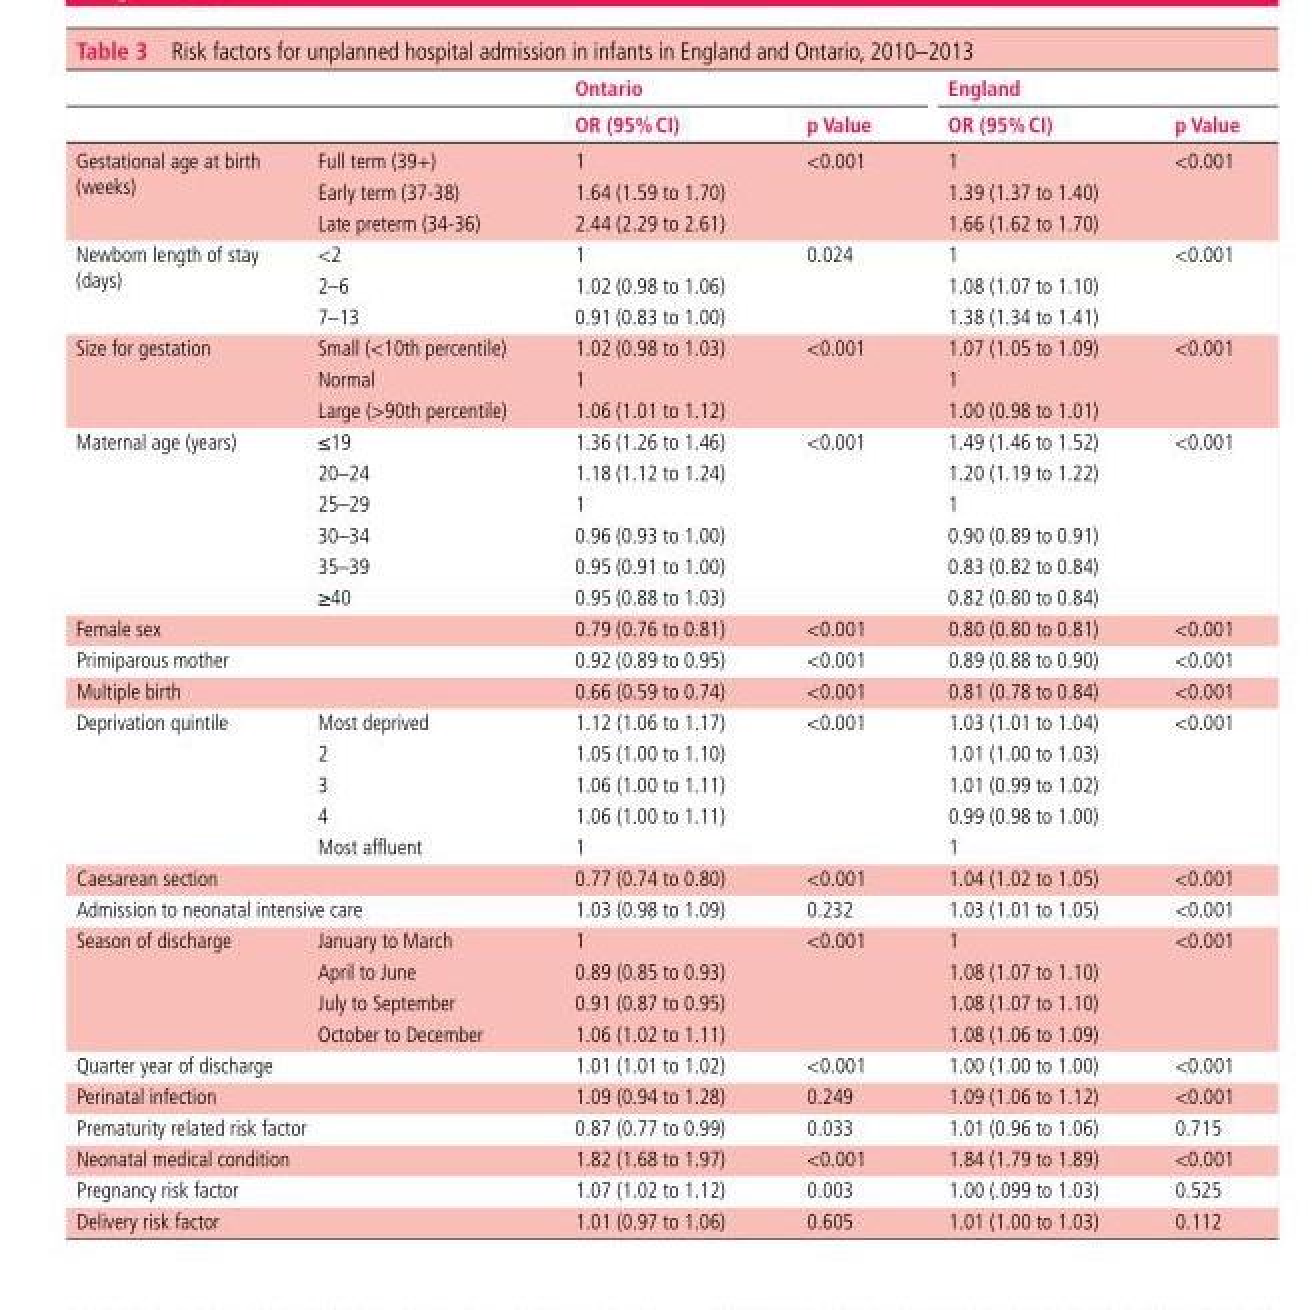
<table><thead><tr><td rowspan="2"></td><td rowspan="2"></td><td colspan="2">Ontario</td><td colspan="2">England</td></tr><tr><td>OR (95% CI)</td><td>p Value</td><td>OR (95% CI)</td><td>p Value</td></tr></thead><tbody><tr><td rowspan="3">Gestational age at birth (weeks)</td><td>Full term (39+)</td><td>1</td><td>&lt;0.001</td><td>1</td><td>&lt;0.001</td></tr><tr><td>Early term (37-38)</td><td>1.64 (1.59 to 1.70)</td><td></td><td>1.39 (1.37 to 1.40)</td><td></td></tr><tr><td>Late preterm (34-36)</td><td>2.44 (2.29 to 2.61)</td><td></td><td>1.66 (1.62 to 1.70)</td><td></td></tr><tr><td rowspan="3">Newborn length of stay (days)</td><td>&lt;2</td><td>1</td><td>0.024</td><td>1</td><td>&lt;0.001</td></tr><tr><td>2–6</td><td>1.02 (0.98 to 1.06)</td><td></td><td>1.08 (1.07 to 1.10)</td><td></td></tr><tr><td>7–13</td><td>0.91 (0.83 to 1.00)</td><td></td><td>1.38 (1.34 to 1.41)</td><td></td></tr><tr><td rowspan="3">Size for gestation</td><td>Small (&lt;10th percentile)</td><td>1.02 (0.98 to 1.03)</td><td>&lt;0.001</td><td>1.07 (1.05 to 1.09)</td><td>&lt;0.001</td></tr><tr><td>Normal</td><td>1</td><td></td><td>1</td><td></td></tr><tr><td>Large (&gt;90th percentile)</td><td>1.06 (1.01 to 1.12)</td><td></td><td>1.00 (0.98 to 1.01)</td><td></td></tr><tr><td rowspan="6">Maternal age (years)</td><td>≤19</td><td>1.36 (1.26 to 1.46)</td><td>&lt;0.001</td><td>1.49 (1.46 to 1.52)</td><td>&lt;0.001</td></tr><tr><td>20–24</td><td>1.18 (1.12 to 1.24)</td><td></td><td>1.20 (1.19 to 1.22)</td><td></td></tr><tr><td>25–29</td><td>1</td><td></td><td>1</td><td></td></tr><tr><td>30–34</td><td>0.96 (0.93 to 1.00)</td><td></td><td>0.90 (0.89 to 0.91)</td><td></td></tr><tr><td>35–39</td><td>0.95 (0.91 to 1.00)</td><td></td><td>0.83 (0.82 to 0.84)</td><td></td></tr><tr><td>≥40</td><td>0.95 (0.88 to 1.03)</td><td></td><td>0.82 (0.80 to 0.84)</td><td></td></tr><tr><td>Female sex</td><td></td><td>0.79 (0.76 to 0.81)</td><td>&lt;0.001</td><td>0.80 (0.80 to 0.81)</td><td>&lt;0.001</td></tr><tr><td colspan="2">Primiparous mother</td><td>0.92 (0.89 to 0.95)</td><td>&lt;0.001</td><td>0.89 (0.88 to 0.90)</td><td>&lt;0.001</td></tr><tr><td>Multiple birth</td><td></td><td>0.66 (0.59 to 0.74)</td><td>&lt;0.001</td><td>0.81 (0.78 to 0.84)</td><td>&lt;0.001</td></tr><tr><td rowspan="5">Deprivation quintile</td><td>Most deprived</td><td>1.12 (1.06 to 1.17)</td><td>&lt;0.001</td><td>1.03 (1.01 to 1.04)</td><td>&lt;0.001</td></tr><tr><td>2</td><td>1.05 (1.00 to 1.10)</td><td></td><td>1.01 (1.00 to 1.03)</td><td></td></tr><tr><td>3</td><td>1.06 (1.00 to 1.11)</td><td></td><td>1.01 (0.99 to 1.02)</td><td></td></tr><tr><td>4</td><td>1.06 (1.00 to 1.11)</td><td></td><td>0.99 (0.98 to 1.00)</td><td></td></tr><tr><td>Most affluent</td><td>1</td><td></td><td>1</td><td></td></tr><tr><td>Caesarean section</td><td></td><td>0.77 (0.74 to 0.80)</td><td>&lt;0.001</td><td>1.04 (1.02 to 1.05)</td><td>&lt;0.001</td></tr><tr><td colspan="2">Admission to neonatal intensive care</td><td>1.03 (0.98 to 1.09)</td><td>0.232</td><td>1.03 (1.01 to 1.05)</td><td>&lt;0.001</td></tr><tr><td rowspan="4">Season of discharge</td><td>January to March</td><td>1</td><td>&lt;0.001</td><td>1</td><td>&lt;0.001</td></tr><tr><td>April to June</td><td>0.89 (0.85 to 0.93)</td><td></td><td>1.08 (1.07 to 1.10)</td><td></td></tr><tr><td>July to September</td><td>0.91 (0.87 to 0.95)</td><td></td><td>1.08 (1.07 to 1.10)</td><td></td></tr><tr><td>October to December</td><td>1.06 (1.02 to 1.11)</td><td></td><td>1.08 (1.06 to 1.09)</td><td></td></tr><tr><td colspan="2">Quarter year of discharge</td><td>1.01 (1.01 to 1.02)</td><td>&lt;0.001</td><td>1.00 (1.00 to 1.00)</td><td>&lt;0.001</td></tr><tr><td colspan="2">Perinatal infection</td><td>1.09 (0.94 to 1.28)</td><td>0.249</td><td>1.09 (1.06 to 1.12)</td><td>&lt;0.001</td></tr><tr><td colspan="2">Prematurity related risk factor</td><td>0.87 (0.77 to 0.99)</td><td>0.033</td><td>1.01 (0.96 to 1.06)</td><td>0.715</td></tr><tr><td colspan="2">Neonatal medical condition</td><td>1.82 (1.68 to 1.97)</td><td>&lt;0.001</td><td>1.84 (1.79 to 1.89)</td><td>&lt;0.001</td></tr><tr><td colspan="2">Pregnancy risk factor</td><td>1.07 (1.02 to 1.12)</td><td>0.003</td><td>1.00 (.099 to 1.03)</td><td>0.525</td></tr><tr><td>Delivery risk factor</td><td></td><td>1.01 (0.97 to 1.06)</td><td>0.605</td><td>1.01 (1.00 to 1.03)</td><td>0.112</td></tr></tbody></table>